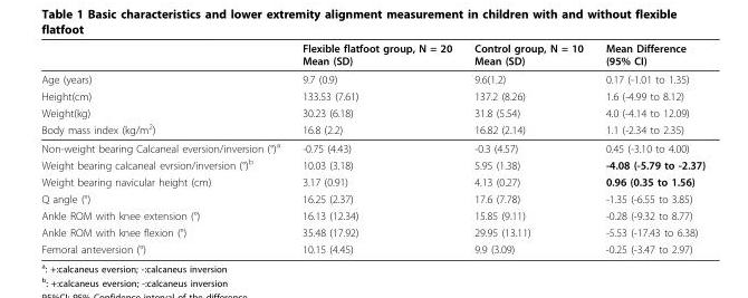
<table><thead><tr><td></td><td>Flexible flatfoot group, N = 20 Mean (SD)</td><td>Control group, N = 10 Mean (SD)</td><td>Mean Difference (95% CI)</td></tr></thead><tbody><tr><td>Age (years)</td><td>9.7 (0.9)</td><td>9.6(1.2)</td><td>0.17 (-1.01 to 1.35)</td></tr><tr><td>Height(cm)</td><td>133.53 (7.61)</td><td>137.2 (8.26)</td><td>1.6 (-4.99 to 8.12)</td></tr><tr><td>Weight(kg)</td><td>30.23 (6.18)</td><td>31.8 (5.54)</td><td>4.0 (-4.14 to 12.09)</td></tr><tr><td>Body mass index (kg/m<sup>2</sup>)</td><td>16.8 (2.2)</td><td>16.82 (2.14)</td><td>1.1 (-2.34 to 2.35)</td></tr><tr><td>Non-weight bearing Calcaneal eversion/inversion (°)<sup>a</sup></td><td>-0.75 (4.43)</td><td>-0.3 (4.57)</td><td>0.45 (-3.10 to 4.00)</td></tr><tr><td>Weight bearing calcaneal evrsion/inversion (°)<sup>b</sup></td><td>10.03 (3.18)</td><td>5.95 (1.38)</td><td>-4.08 (-5.79 to -2.37)</td></tr><tr><td>Weight bearing navicular height (cm)</td><td>3.17 (0.91)</td><td>4.13 (0.27)</td><td>0.96 (0.35 to 1.56)</td></tr><tr><td>Q angle (°)</td><td>16.25 (2.37)</td><td>17.6 (7.78)</td><td>-1.35 (-6.55 to 3.85)</td></tr><tr><td>Ankle ROM with knee extension (°)</td><td>16.13 (12.34)</td><td>15.85 (9.11)</td><td>-0.28 (-9.32 to 8.77)</td></tr><tr><td>Ankle ROM with knee flexion (°)</td><td>35.48 (17.92)</td><td>29.95 (13.11)</td><td>-5.53 (-17.43 to 6.38)</td></tr><tr><td>Femoral anteversion (°)</td><td>10.15 (4.45)</td><td>9.9 (3.09)</td><td>-0.25 (-3.47 to 2.97)</td></tr></tbody></table>